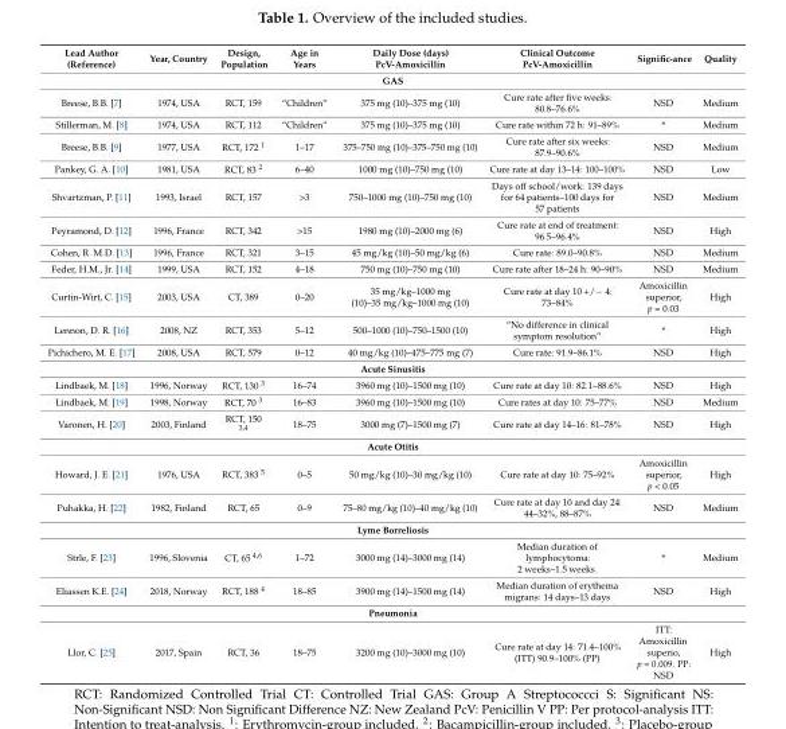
<table><thead><tr><td>Lead Author (Reference)</td><td>Year, Country</td><td>Design, Population</td><td>Age in Years</td><td>Daily Dose (days) PcV-Amoxicillin</td><td>Clinical Outcome PcV-Amoxicillin</td><td>Signific-ance</td><td>Quality</td></tr></thead><tbody><tr><td colspan="8">GAS</td></tr><tr><td>Breese, B.B. [7]</td><td>1974, USA</td><td>RCT, 159</td><td>“Children”</td><td>375 mg (10)–375 mg (10)</td><td>Cure rate after five weeks: 80.8–76.6%</td><td>NSD</td><td>Medium</td></tr><tr><td>Stillerman, M. [8]</td><td>1974, USA</td><td>RCT, 112</td><td>“Children”</td><td>375 mg (10)–375 mg (10)</td><td>Cure rate within 72 h: 91–89%</td><td>*</td><td>Medium</td></tr><tr><td>Breese, B.B. [9]</td><td>1977, USA</td><td>RCT, 172 <sup>1</sup></td><td>1–17</td><td>375–750 mg (10)–375–750 mg (10)</td><td>Cure rate after six weeks: 87.9–90.6%</td><td>NSD</td><td>Medium</td></tr><tr><td>Pankey, G. A. [10]</td><td>1981, USA</td><td>RCT, 83 <sup>2</sup></td><td>6–40</td><td>1000 mg (10)–750 mg (10)</td><td>Cure rate at day 13–14: 100–100%</td><td>NSD</td><td>Low</td></tr><tr><td>Shvartzman, P. [11]</td><td>1993, Israel</td><td>RCT, 157</td><td>&gt;3</td><td>750–1000 mg (10)–750 mg (10)</td><td>Days off school/work: 139 days for 64 patients–100 days for 57 patients</td><td>NSD</td><td>Medium</td></tr><tr><td>Peyramond, D. [12]</td><td>1996, France</td><td>RCT, 342</td><td>&gt;15</td><td>1980 mg (10)–2000 mg (6)</td><td>Cure rate at end of treatment: 96.5–96.4%</td><td>NSD</td><td>High</td></tr><tr><td>Cohen, R. M.D. [13]</td><td>1996, France</td><td>RCT, 321</td><td>3–15</td><td>45 mg/kg (10)–50 mg/kg (6)</td><td>Cure rate: 89.0–90.8%</td><td>NSD</td><td>Medium</td></tr><tr><td>Feder, H.M., Jr. [14]</td><td>1999, USA</td><td>RCT, 152</td><td>4–18</td><td>750 mg (10)–750 mg (10)</td><td>Cure rate after 18–24 h: 90–90%</td><td>NSD</td><td>Medium</td></tr><tr><td>Curtin-Wirt, C. [15]</td><td>2003, USA</td><td>CT, 389</td><td>0–20</td><td>35 mg/kg–1000 mg (10)–35 mg/kg–1000 mg (10)</td><td>Cure rate at day 10 +/− 4: 73–84%</td><td>Amoxicillin superior, p = 0.03</td><td>High</td></tr><tr><td>Lennon, D. R. [16]</td><td>2008, NZ</td><td>RCT, 353</td><td>5–12</td><td>500–1000 (10)–750–1500 (10)</td><td>“No difference in clinical symptom resolution”</td><td>*</td><td>High</td></tr><tr><td>Pichichero, M. E. [17]</td><td>2008, USA</td><td>RCT, 579</td><td>0–12</td><td>40 mg/kg (10)–475–775 mg (7)</td><td>Cure rate: 91.9–86.1%</td><td>NSD</td><td>High</td></tr><tr><td colspan="8">Acute Sinusitis</td></tr><tr><td>Lindbaek, M. [18]</td><td>1996, Norway</td><td>RCT, 130 <sup>3</sup></td><td>16–74</td><td>3960 mg (10)–1500 mg (10)</td><td>Cure rate at day 10: 82.1–88.6%</td><td>NSD</td><td>High</td></tr><tr><td>Lindbaek, M. [19]</td><td>1998, Norway</td><td>RCT, 70 <sup>3</sup></td><td>16–83</td><td>3960 mg (10)–1500 mg (10)</td><td>Cure rates at day 10: 75–77%</td><td>NSD</td><td>Medium</td></tr><tr><td>Varonen, H. [20]</td><td>2003, Finland</td><td>RCT, 150 <sup>3,4</sup></td><td>18–75</td><td>3000 mg (7)–1500 mg (7)</td><td>Cure rate at day 14–16: 81–78%</td><td>NSD</td><td>High</td></tr><tr><td colspan="8">Acute Otitis</td></tr><tr><td>Howard, J. E. [21]</td><td>1976, USA</td><td>RCT, 383 <sup>5</sup></td><td>0–5</td><td>50 mg/kg (10)–30 mg/kg (10)</td><td>Cure rate at day 10: 75–92%</td><td>Amoxicillin superior, p &lt; 0.05</td><td>High</td></tr><tr><td>Puhakka, H. [22]</td><td>1982, Finland</td><td>RCT, 65</td><td>0–9</td><td>75–80 mg/kg (10)–40 mg/kg (10)</td><td>Cure rate at day 10 and day 24: 44–32%, 88–87%</td><td>NSD</td><td>Medium</td></tr><tr><td colspan="8">Lyme Borreliosis</td></tr><tr><td>Strle, F. [23]</td><td>1996, Slovenia</td><td>CT, 65 <sup>4,6</sup></td><td>1–72</td><td>3000 mg (14)–3000 mg (14)</td><td>Median duration of lymphocytoma: 2 weeks–1.5 weeks.</td><td>*</td><td>Medium</td></tr><tr><td>Eliassen K.E. [24]</td><td>2018, Norway</td><td>RCT, 188 <sup>4</sup></td><td>18–85</td><td>3900 mg (14)–1500 mg (14)</td><td>Median duration of erythema migrans: 14 days–13 days</td><td>NSD</td><td>High</td></tr><tr><td colspan="8">Pneumonia</td></tr><tr><td>Llor, C. [25]</td><td>2017, Spain</td><td>RCT, 36</td><td>18–75</td><td>3200 mg (10)–3000 mg (10)</td><td>Cure rate at day 14: 71.4–100% (ITT) 90.9–100% (PP)</td><td>ITT: Amoxicillin superio, p = 0.009. PP: NSD</td><td>High</td></tr></tbody></table>